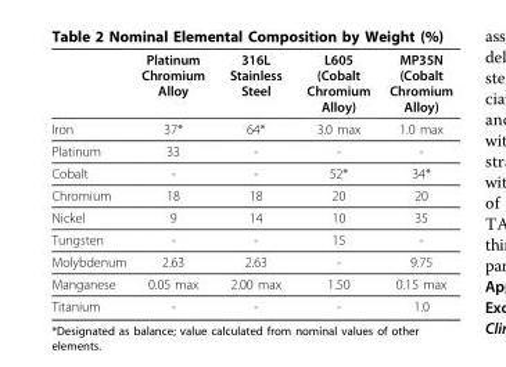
<table><thead><tr><td></td><td>Platinum Chromium Alloy</td><td>316L Stainless Steel</td><td>L605 (Cobalt Chromium Alloy)</td><td>MP35N (Cobalt Chromium Alloy)</td></tr></thead><tbody><tr><td>Iron</td><td>37*</td><td>64*</td><td>3.0 max</td><td>1.0 max</td></tr><tr><td>Platinum</td><td>33</td><td>-</td><td>-</td><td>-</td></tr><tr><td>Cobalt</td><td>-</td><td>-</td><td>52*</td><td>34*</td></tr><tr><td>Chromium</td><td>18</td><td>18</td><td>20</td><td>20</td></tr><tr><td>Nickel</td><td>9</td><td>14</td><td>10</td><td>35</td></tr><tr><td>Tungsten</td><td>-</td><td>-</td><td>15</td><td>-</td></tr><tr><td>Molybdenum</td><td>2.63</td><td>2.63</td><td>-</td><td>9.75</td></tr><tr><td>Manganese</td><td>0.05 max</td><td>2.00 max</td><td>1.50</td><td>0.15 max</td></tr><tr><td>Titanium</td><td>-</td><td>-</td><td>-</td><td>1.0</td></tr></tbody></table>